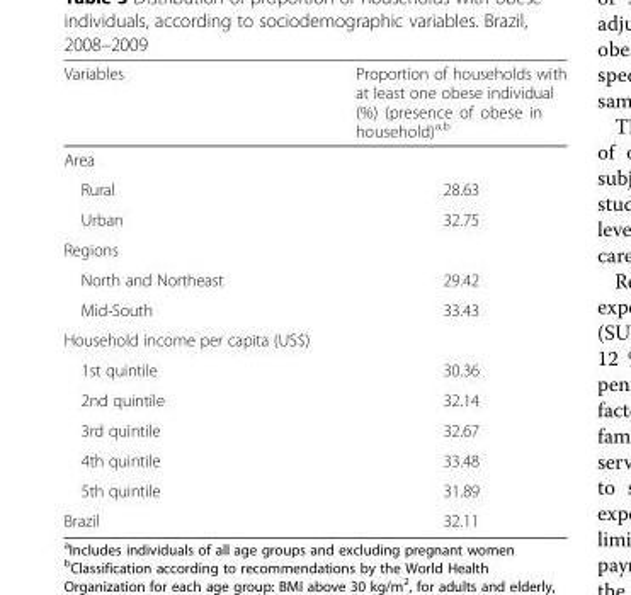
<table><thead><tr><td>Variables</td><td>Proportion of households with at least one obese individual (%) (presence of obese in household)<sup>a,b</sup></td></tr></thead><tbody><tr><td colspan="2">Area</td></tr><tr><td>Rural</td><td>28.63</td></tr><tr><td>Urban</td><td>32.75</td></tr><tr><td colspan="2">Regions</td></tr><tr><td>North and Northeast</td><td>29.42</td></tr><tr><td>Mid-South</td><td>33.43</td></tr><tr><td colspan="2">Household income per capita (US$)</td></tr><tr><td>1st quintile</td><td>30.36</td></tr><tr><td>2nd quintile</td><td>32.14</td></tr><tr><td>3rd quintile</td><td>32.67</td></tr><tr><td>4th quintile</td><td>33.48</td></tr><tr><td>5th quintile</td><td>31.89</td></tr><tr><td>Brazil</td><td>32.11</td></tr></tbody></table>